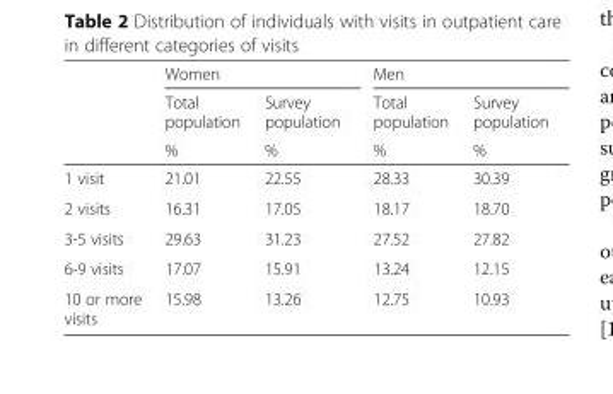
<table><thead><tr><td rowspan="3"></td><td colspan="2">Women</td><td colspan="2">Men</td></tr><tr><td rowspan="2">Total population %</td><td rowspan="2">Survey population %</td><td rowspan="2">Total population %</td><td rowspan="2">Survey population %</td></tr><tr></tr></thead><tbody><tr><td>1 visit</td><td>21.01</td><td>22.55</td><td>28.33</td><td>30.39</td></tr><tr><td>2 visits</td><td>16.31</td><td>17.05</td><td>18.17</td><td>18.70</td></tr><tr><td>3-5 visits</td><td>29.63</td><td>31.23</td><td>27.52</td><td>27.82</td></tr><tr><td>6-9 visits</td><td>17.07</td><td>15.91</td><td>13.24</td><td>12.15</td></tr><tr><td>10 or more visits</td><td>15.98</td><td>13.26</td><td>12.75</td><td>10.93</td></tr></tbody></table>